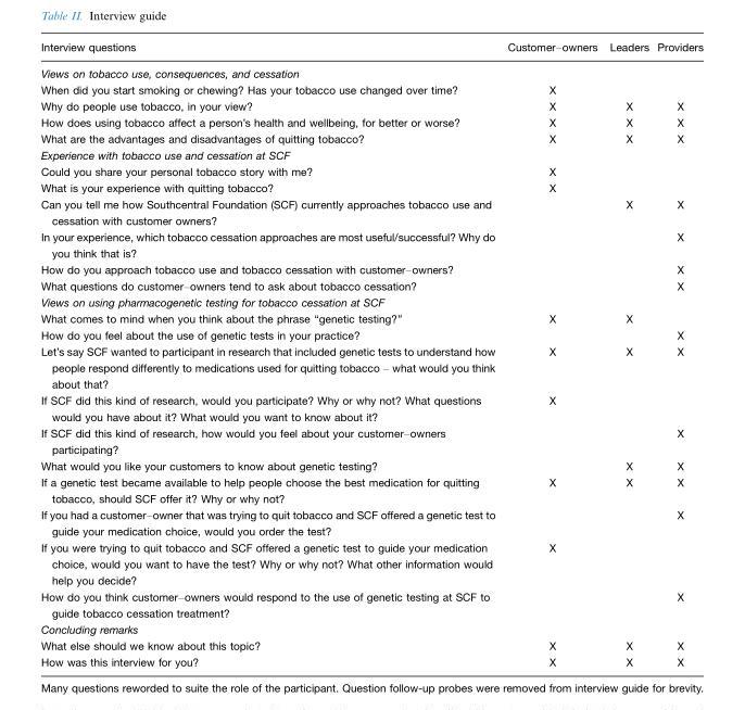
<table><thead><tr><td>Interview questions</td><td>Customer–owners</td><td>Leaders</td><td>Providers</td></tr></thead><tbody><tr><td colspan="4">Views on tobacco use, consequences, and cessation</td></tr><tr><td>When did you start smoking or chewing? Has your tobacco use changed over time?</td><td>X</td><td></td><td></td></tr><tr><td>Why do people use tobacco, in your view?</td><td>X</td><td>X</td><td>X</td></tr><tr><td>How does using tobacco affect a person’s health and wellbeing, for better or worse?</td><td>X</td><td>X</td><td>X</td></tr><tr><td>What are the advantages and disadvantages of quitting tobacco?</td><td>X</td><td>X</td><td>X</td></tr><tr><td colspan="4">Experience with tobacco use and cessation at SCF</td></tr><tr><td>Could you share your personal tobacco story with me?</td><td>X</td><td></td><td></td></tr><tr><td>What is your experience with quitting tobacco?</td><td>X</td><td></td><td></td></tr><tr><td>Can you tell me how Southcentral Foundation (SCF) currently approaches tobacco use and cessation with customer owners?</td><td></td><td>X</td><td>X</td></tr><tr><td>In your experience, which tobacco cessation approaches are most useful/successful? Why do you think that is?</td><td></td><td></td><td>X</td></tr><tr><td>How do you approach tobacco use and tobacco cessation with customer–owners?</td><td></td><td></td><td>X</td></tr><tr><td>What questions do customer–owners tend to ask about tobacco cessation?</td><td></td><td></td><td>X</td></tr><tr><td colspan="4">Views on using pharmacogenetic testing for tobacco cessation at SCF</td></tr><tr><td>What comes to mind when you think about the phrase ‘‘genetic testing?’’</td><td>X</td><td>X</td><td></td></tr><tr><td>How do you feel about the use of genetic tests in your practice?</td><td></td><td></td><td>X</td></tr><tr><td>Let’s say SCF wanted to participant in research that included genetic tests to understand how people respond differently to medications used for quitting tobacco – what would you think about that?</td><td>X</td><td>X</td><td>X</td></tr><tr><td>If SCF did this kind of research, would you participate? Why or why not? What questions would you have about it? What would you want to know about it?</td><td>X</td><td></td><td></td></tr><tr><td>If SCF did this kind of research, how would you feel about your customer–owners participating?</td><td></td><td></td><td>X</td></tr><tr><td>What would you like your customers to know about genetic testing?</td><td></td><td>X</td><td>X</td></tr><tr><td>If a genetic test became available to help people choose the best medication for quitting tobacco, should SCF offer it? Why or why not?</td><td>X</td><td>X</td><td>X</td></tr><tr><td>If you had a customer–owner that was trying to quit tobacco and SCF offered a genetic test to guide your medication choice, would you order the test?</td><td></td><td></td><td>X</td></tr><tr><td>If you were trying to quit tobacco and SCF offered a genetic test to guide your medication choice, would you want to have the test? Why or why not? What other information would help you decide?</td><td>X</td><td></td><td></td></tr><tr><td>How do you think customer–owners would respond to the use of genetic testing at SCF to guide tobacco cessation treatment?</td><td></td><td></td><td>X</td></tr><tr><td colspan="4">Concluding remarks</td></tr><tr><td>What else should we know about this topic?</td><td>X</td><td>X</td><td>X</td></tr><tr><td>How was this interview for you?</td><td>X</td><td>X</td><td>X</td></tr></tbody></table>